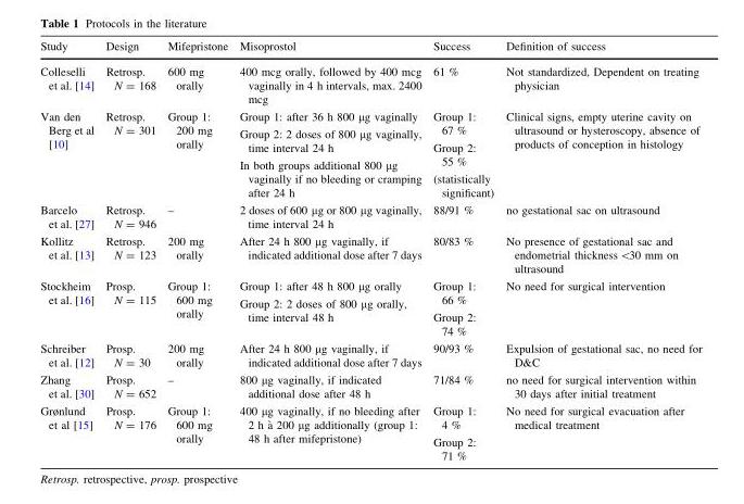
<table><thead><tr><td>Study</td><td>Design</td><td>Mifepristone</td><td>Misoprostol</td><td>Success</td><td>Definition of success</td></tr></thead><tbody><tr><td>Colleselli et al. [14]</td><td>Retrosp. N = 168</td><td>600 mg orally</td><td>400 mcg orally, followed by 400 mcg vaginally in 4 h intervals, max. 2400 mcg</td><td>61 %</td><td>Not standardized, Dependent on treating physician</td></tr><tr><td>Van den Berg et al [10]</td><td>Retrosp. N = 301</td><td>Group 1: 200 mg orally</td><td>Group 1: after 36 h 800 µg vaginally Group 2: 2 doses of 800 µg vaginally, time interval 24 h In both groups additional 800 µg vaginally if no bleeding or cramping after 24 h</td><td>Group 1: 67 % Group 2: 55 % (statistically significant)</td><td>Clinical signs, empty uterine cavity on ultrasound or hysteroscopy, absence of products of conception in histology</td></tr><tr><td>Barcelo et al. [27]</td><td>Retrosp. N = 946</td><td>–</td><td>2 doses of 600 µg or 800 µg vaginally, time interval 24 h</td><td>88/91 %</td><td>no gestational sac on ultrasound</td></tr><tr><td>Kollitz et al. [13]</td><td>Retrosp. N = 123</td><td>200 mg orally</td><td>After 24 h 800 µg vaginally, if indicated additional dose after 7 days</td><td>80/83 %</td><td>No presence of gestational sac and endometrial thickness &lt;30 mm on ultrasound</td></tr><tr><td>Stockheim et al. [16]</td><td>Prosp. N = 115</td><td>Group 1: 600 mg orally</td><td>Group 1: after 48 h 800 µg orally Group 2: 2 doses of 800 µg orally, time interval 48 h</td><td>Group 1: 66 % Group 2: 74 %</td><td>No need for surgical intervention</td></tr><tr><td>Schreiber et al. [12]</td><td>Prosp. N = 30</td><td>200 mg orally</td><td>After 24 h 800 µg vaginally, if indicated additional dose after 7 days</td><td>90/93 %</td><td>Expulsion of gestational sac, no need for D&amp;C</td></tr><tr><td>Zhang et al. [30]</td><td>Prosp. N = 652</td><td>–</td><td>800 µg vaginally, if indicated additional dose after 48 h</td><td>71/84 %</td><td>no need for surgical intervention within 30 days after initial treatment</td></tr><tr><td>Grønlund et al [15]</td><td>Prosp. N = 176</td><td>Group 1: 600 mg orally</td><td>400 lg vaginally, if no bleeding after 2 h a` 200 lg additionally (group 1: 48 h after mifepristone)</td><td>Group 1: 4 % Group 2: 71 %</td><td>No need for surgical evacuation after medical treatment</td></tr></tbody></table>